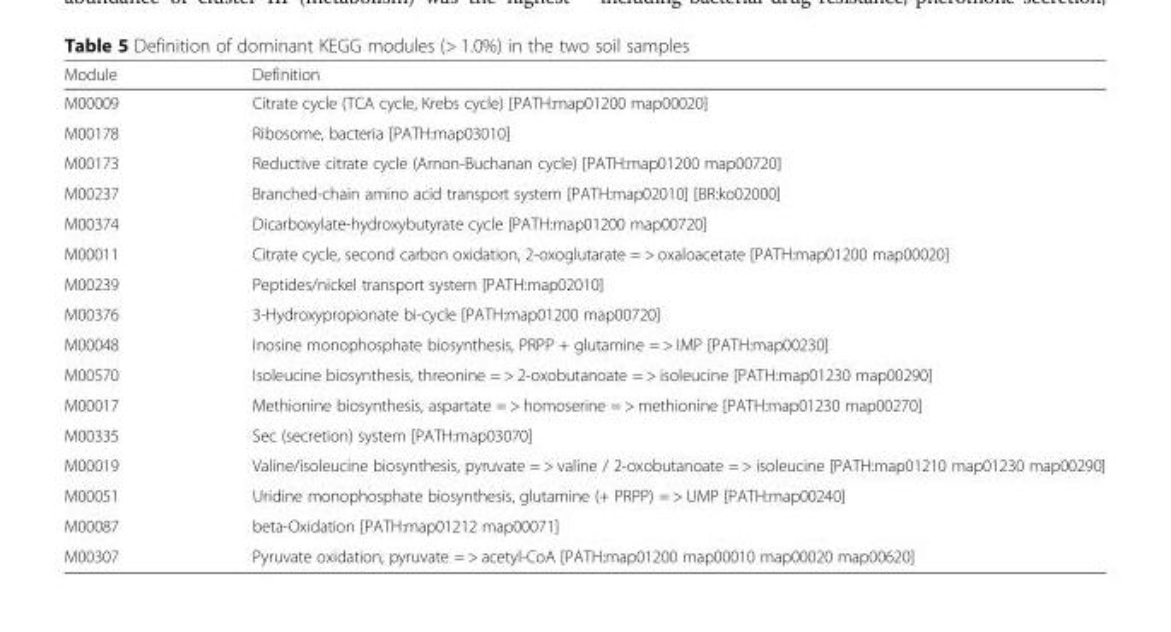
<table><thead><tr><td>Module</td><td>Definition</td></tr></thead><tbody><tr><td>M00009</td><td>Citrate cycle (TCA cycle, Krebs cycle) [PATH:map01200 map00020]</td></tr><tr><td>M00178</td><td>Ribosome, bacteria [PATH:map03010]</td></tr><tr><td>M00173</td><td>Reductive citrate cycle (Arnon-Buchanan cycle) [PATH:map01200 map00720]</td></tr><tr><td>M00237</td><td>Branched-chain amino acid transport system [PATH:map02010] [BR:ko02000]</td></tr><tr><td>M00374</td><td>Dicarboxylate-hydroxybutyrate cycle [PATH:map01200 map00720]</td></tr><tr><td>M00011</td><td>Citrate cycle, second carbon oxidation, 2-oxoglutarate = &gt; oxaloacetate [PATH:map01200 map00020]</td></tr><tr><td>M00239</td><td>Peptides/nickel transport system [PATH:map02010]</td></tr><tr><td>M00376</td><td>3-Hydroxypropionate bi-cycle [PATH:map01200 map00720]</td></tr><tr><td>M00048</td><td>Inosine monophosphate biosynthesis, PRPP + glutamine = &gt; IMP [PATH:map00230]</td></tr><tr><td>M00570</td><td>Isoleucine biosynthesis, threonine = &gt; 2-oxobutanoate = &gt; isoleucine [PATH:map01230 map00290]</td></tr><tr><td>M00017</td><td>Methionine biosynthesis, aspartate = &gt; homoserine = &gt; methionine [PATH:map01230 map00270]</td></tr><tr><td>M00335</td><td>Sec (secretion) system [PATH:map03070]</td></tr><tr><td>M00019</td><td>Valine/isoleucine biosynthesis, pyruvate = &gt; valine / 2-oxobutanoate = &gt; isoleucine [PATH:map01210 map01230 map00290]</td></tr><tr><td>M00051</td><td>Uridine monophosphate biosynthesis, glutamine (+ PRPP) = &gt; UMP [PATH:map00240]</td></tr><tr><td>M00087</td><td>beta-Oxidation [PATH:map01212 map00071]</td></tr><tr><td>M00307</td><td>Pyruvate oxidation, pyruvate = &gt; acetyl-CoA [PATH:map01200 map00010 map00020 map00620]</td></tr></tbody></table>